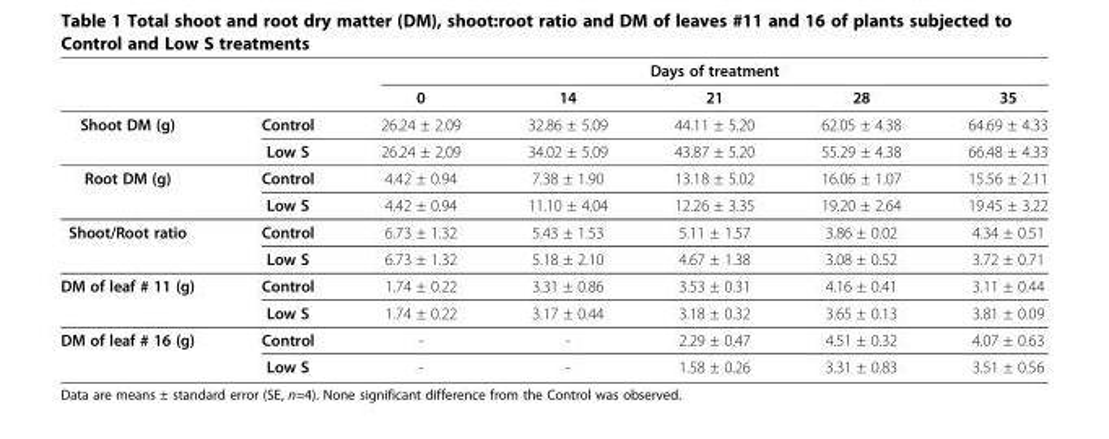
<table><thead><tr><td rowspan="2"></td><td rowspan="2"></td><td colspan="5">Days of treatment</td></tr><tr><td>0</td><td>14</td><td>21</td><td>28</td><td>35</td></tr></thead><tbody><tr><td rowspan="2">Shoot DM (g)</td><td>Control</td><td>26.24 ± 2.09</td><td>32.86 ± 5.09</td><td>44.11 ± 5.20</td><td>62.05 ± 4.38</td><td>64.69 ± 4.33</td></tr><tr><td>Low S</td><td>26.24 ± 2,09</td><td>34.02 ± 5.09</td><td>43.87 ± 5.20</td><td>55.29 ± 4.38</td><td>66.48 ± 4.33</td></tr><tr><td rowspan="2">Root DM (g)</td><td>Control</td><td>4.42 ± 0.94</td><td>7.38 ± 1.90</td><td>13.18 ± 5.02</td><td>16.06 ± 1.07</td><td>15.56 ± 2.11</td></tr><tr><td>Low S</td><td>4.42 ± 0.94</td><td>11.10 ± 4.04</td><td>12.26 ± 3.35</td><td>19.20 ± 2.64</td><td>19.45 ± 3.22</td></tr><tr><td rowspan="2">Shoot/Root ratio</td><td>Control</td><td>6.73 ± 1.32</td><td>5.43 ± 1.53</td><td>5.11 ± 1.57</td><td>3.86 ± 0.02</td><td>4.34 ± 0.51</td></tr><tr><td>Low S</td><td>6.73 ± 1.32</td><td>5.18 ± 2.10</td><td>4.67 ± 1.38</td><td>3.08 ± 0.52</td><td>3.72 ± 0.71</td></tr><tr><td rowspan="2">DM of leaf # 11 (g)</td><td>Control</td><td>1.74 ± 0.22</td><td>3.31 ± 0.86</td><td>3.53 ± 0.31</td><td>4.16 ± 0.41</td><td>3.11 ± 0.44</td></tr><tr><td>Low S</td><td>1.74 ± 0.22</td><td>3.17 ± 0.44</td><td>3.18 ± 0.32</td><td>3.65 ± 0.13</td><td>3.81 ± 0.09</td></tr><tr><td rowspan="2">DM of leaf # 16 (g)</td><td>Control</td><td>-</td><td>-</td><td>2.29 ± 0.47</td><td>4.51 ± 0.32</td><td>4.07 ± 0.63</td></tr><tr><td>Low S</td><td>-</td><td>-</td><td>1.58 ± 0.26</td><td>3.31 ± 0.83</td><td>3.51 ± 0.56</td></tr></tbody></table>